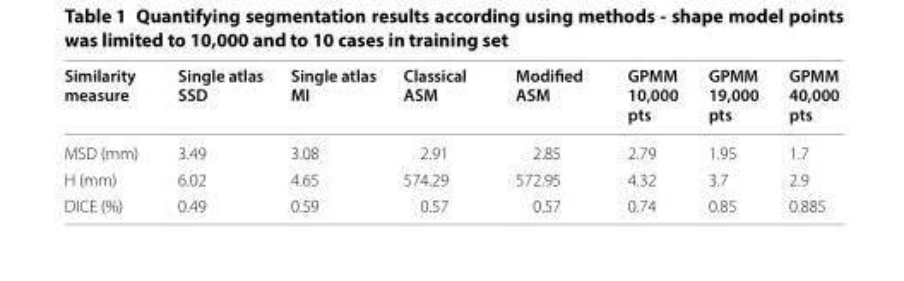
<table><thead><tr><td>Similarity measure</td><td>Single atlas SSD</td><td>Single atlas MI</td><td>Classical ASM</td><td>Modified ASM</td><td>GPMM 10,000 pts</td><td>GPMM 19,000 pts</td><td>GPMM 40,000 pts</td></tr></thead><tbody><tr><td>MSD (mm)</td><td>3.49</td><td>3.08</td><td>2.91</td><td>2.85</td><td>2.79</td><td>1.95</td><td>1.7</td></tr><tr><td>H (mm)</td><td>6.02</td><td>4.65</td><td>574.29</td><td>572.95</td><td>4.32</td><td>3.7</td><td>2.9</td></tr><tr><td>DICE (%)</td><td>0.49</td><td>0.59</td><td>0.57</td><td>0.57</td><td>0.74</td><td>0.85</td><td>0.885</td></tr></tbody></table>